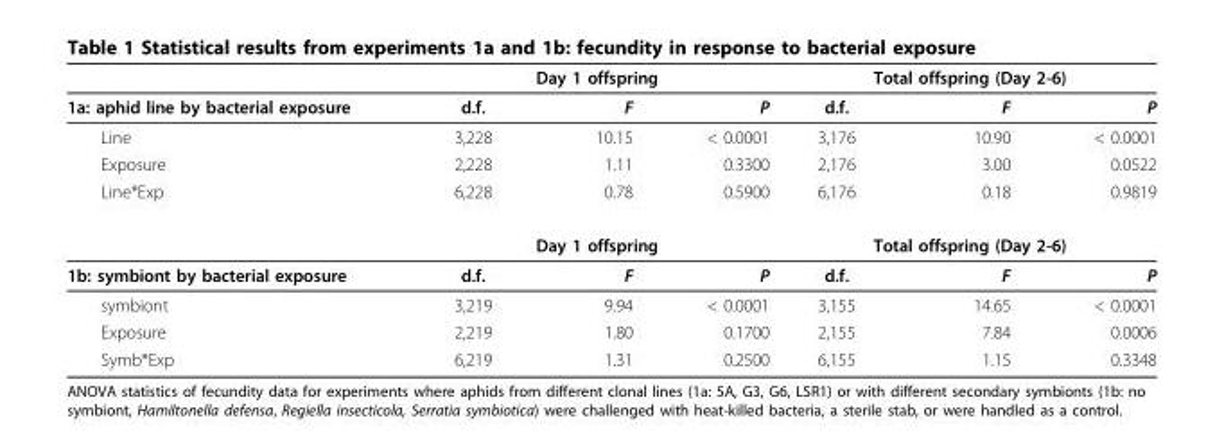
<table><thead><tr><td rowspan="2">1a: aphid line by bacterial exposure</td><td colspan="3">Day 1 offspring</td><td colspan="3">Total offspring (Day 2-6)</td></tr><tr><td>d.f.</td><td>F</td><td>P</td><td>d.f.</td><td>F</td><td>P</td></tr></thead><tbody><tr><td>Line</td><td>3,228</td><td>10.15</td><td>&lt; 0.0001</td><td>3,176</td><td>10.90</td><td>&lt; 0.0001</td></tr><tr><td>Exposure</td><td>2,228</td><td>1.11</td><td>0.3300</td><td>2,176</td><td>3.00</td><td>0.0522</td></tr><tr><td rowspan="2">Line*Exp</td><td>6,228</td><td>0.78</td><td>0.5900</td><td>6,176</td><td>0.18</td><td>0.9819</td></tr><tr><td colspan="3">Day 1 offspring</td><td colspan="3">Total offspring (Day 2-6)</td></tr><tr><td>1b: symbiont by bacterial exposure</td><td>d.f.</td><td>F</td><td>P</td><td>d.f.</td><td>F</td><td>P</td></tr><tr><td>symbiont</td><td>3,219</td><td>9.94</td><td>&lt; 0.0001</td><td>3,155</td><td>14.65</td><td>&lt; 0.0001</td></tr><tr><td>Exposure</td><td>2,219</td><td>1.80</td><td>0.1700</td><td>2,155</td><td>7.84</td><td>0.0006</td></tr><tr><td>Symb*Exp</td><td>6,219</td><td>1.31</td><td>0.2500</td><td>6,155</td><td>1.15</td><td>0.3348</td></tr></tbody></table>